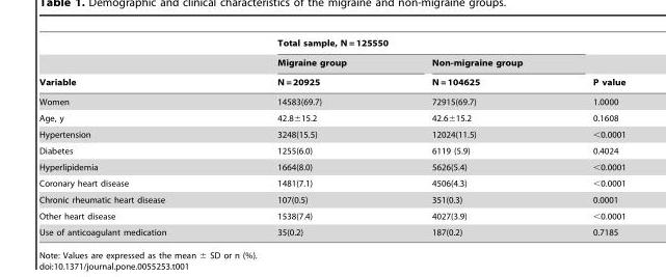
<table><thead><tr><td rowspan="3">Variable</td><td colspan="2">Total sample, N = 125550</td><td rowspan="3">P value</td></tr><tr><td rowspan="2">Migraine group N = 20925</td><td rowspan="2">Non-migraine group N = 104625</td></tr><tr></tr></thead><tbody><tr><td>Women</td><td>14583(69.7)</td><td>72915(69.7)</td><td>1.0000</td></tr><tr><td>Age, y</td><td>42.8±15.2</td><td>42.6±15.2</td><td>0.1608</td></tr><tr><td>Hypertension</td><td>3248(15.5)</td><td>12024(11.5)</td><td>&lt;0.0001</td></tr><tr><td>Diabetes</td><td>1255(6.0)</td><td>6119 (5.9)</td><td>0.4024</td></tr><tr><td>Hyperlipidemia</td><td>1664(8.0)</td><td>5626(5.4)</td><td>&lt;0.0001</td></tr><tr><td>Coronary heart disease</td><td>1481(7.1)</td><td>4506(4.3)</td><td>&lt;0.0001</td></tr><tr><td>Chronic rheumatic heart disease</td><td>107(0.5)</td><td>351(0.3)</td><td>0.0001</td></tr><tr><td>Other heart disease</td><td>1538(7.4)</td><td>4027(3.9)</td><td>&lt;0.0001</td></tr><tr><td>Use of anticoagulant medication</td><td>35(0.2)</td><td>187(0.2)</td><td>0.7185</td></tr></tbody></table>